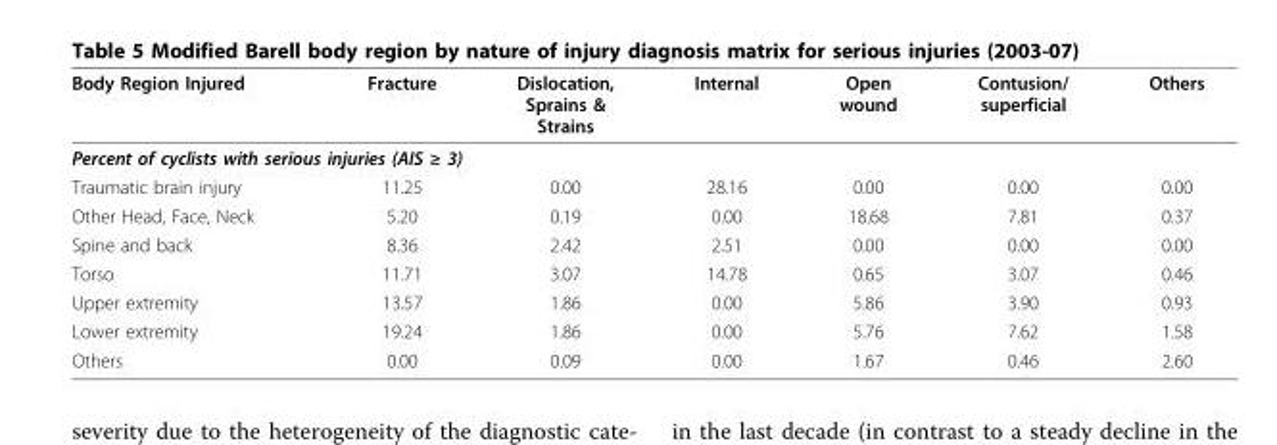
<table><thead><tr><td>Body Region Injured</td><td>Fracture</td><td>Dislocation, Sprains &amp; Strains</td><td>Internal</td><td>Open wound</td><td>Contusion/ superficial</td><td>Others</td></tr></thead><tbody><tr><td colspan="7">Percent of cyclists with serious injuries (AIS ≥ 3)</td></tr><tr><td>Traumatic brain injury</td><td>11.25</td><td>0.00</td><td>28.16</td><td>0.00</td><td>0.00</td><td>0.00</td></tr><tr><td>Other Head, Face, Neck</td><td>5.20</td><td>0.19</td><td>0.00</td><td>18.68</td><td>7.81</td><td>0.37</td></tr><tr><td>Spine and back</td><td>8.36</td><td>2.42</td><td>2.51</td><td>0.00</td><td>0.00</td><td>0.00</td></tr><tr><td>Torso</td><td>11.71</td><td>3.07</td><td>14.78</td><td>0.65</td><td>3.07</td><td>0.46</td></tr><tr><td>Upper extremity</td><td>13.57</td><td>1.86</td><td>0.00</td><td>5.86</td><td>3.90</td><td>0.93</td></tr><tr><td>Lower extremity</td><td>19.24</td><td>1.86</td><td>0.00</td><td>5.76</td><td>7.62</td><td>1.58</td></tr><tr><td>Others</td><td>0.00</td><td>0.09</td><td>0.00</td><td>1.67</td><td>0.46</td><td>2.60</td></tr></tbody></table>